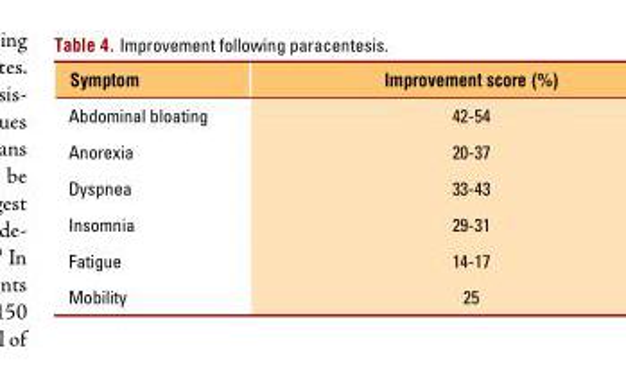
<table><thead><tr><td>Symptom</td><td>Improvement score (%)</td></tr></thead><tbody><tr><td>Abdominal bloating</td><td>42-54</td></tr><tr><td>Anorexia</td><td>20-37</td></tr><tr><td>Dyspnea</td><td>33-43</td></tr><tr><td>Insomnia</td><td>29-31</td></tr><tr><td>Fatigue</td><td>14-17</td></tr><tr><td>Mobility</td><td>25</td></tr></tbody></table>